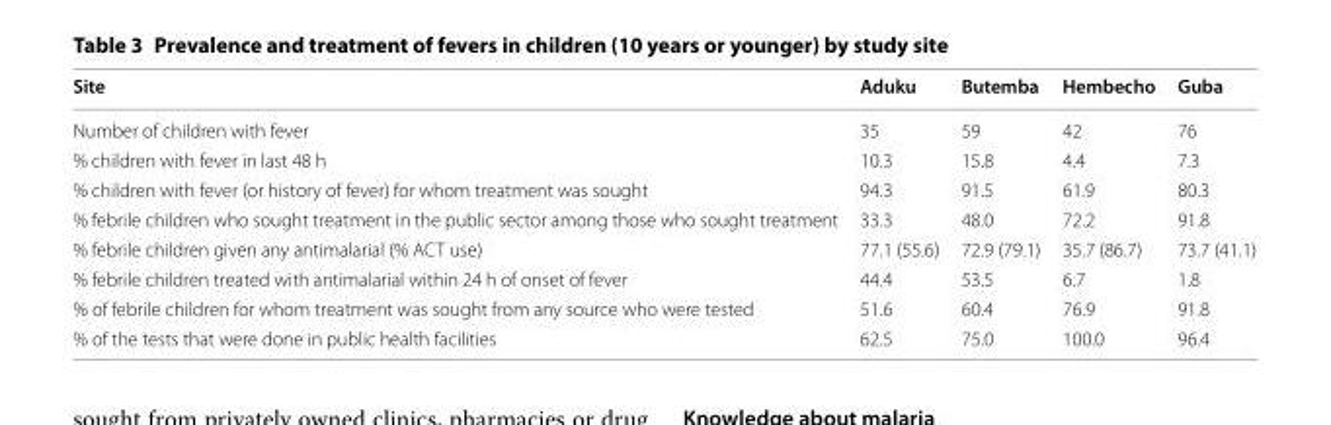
<table><thead><tr><td>Site</td><td>Aduku</td><td>Butemba</td><td>Hembecho</td><td>Guba</td></tr></thead><tbody><tr><td>Number of children with fever</td><td>35</td><td>59</td><td>42</td><td>76</td></tr><tr><td>% children with fever in last 48 h</td><td>10.3</td><td>15.8</td><td>4.4</td><td>7.3</td></tr><tr><td>% children with fever (or history of fever) for whom treatment was sought</td><td>94.3</td><td>91.5</td><td>61.9</td><td>80.3</td></tr><tr><td>% febrile children who sought treatment in the public sector among those who sought treatment</td><td>33.3</td><td>48.0</td><td>72.2</td><td>91.8</td></tr><tr><td>% febrile children given any antimalarial (% ACT use)</td><td>77.1 (55.6)</td><td>72.9 (79.1)</td><td>35.7 (86.7)</td><td>73.7 (41.1)</td></tr><tr><td>% febrile children treated with antimalarial within 24 h of onset of fever</td><td>44.4</td><td>53.5</td><td>6.7</td><td>1.8</td></tr><tr><td>% of febrile children for whom treatment was sought from any source who were tested</td><td>51.6</td><td>60.4</td><td>76.9</td><td>91.8</td></tr><tr><td>% of the tests that were done in public health facilities</td><td>62.5</td><td>75.0</td><td>100.0</td><td>96.4</td></tr></tbody></table>